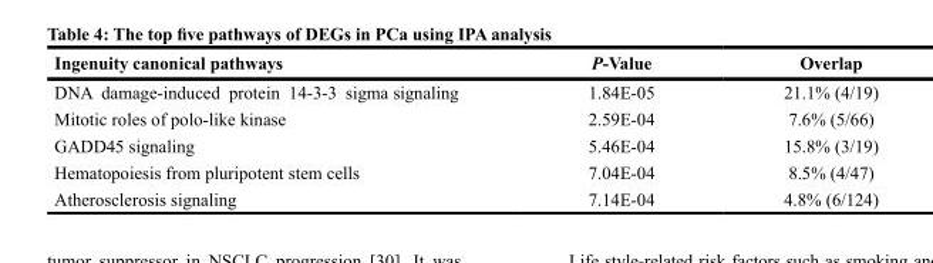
<table><thead><tr><td>Ingenuity canonical pathways</td><td>P-Value</td><td>Overlap</td></tr></thead><tbody><tr><td>DNA damage-induced protein 14-3-3 sigma signaling</td><td>1.84E-05</td><td>21.1% (4/19)</td></tr><tr><td>Mitotic roles of polo-like kinase</td><td>2.59E-04</td><td>7.6% (5/66)</td></tr><tr><td>GADD45 signaling</td><td>5.46E-04</td><td>15.8% (3/19)</td></tr><tr><td>Hematopoiesis from pluripotent stem cells</td><td>7.04E-04</td><td>8.5% (4/47)</td></tr><tr><td>Atherosclerosis signaling</td><td>7.14E-04</td><td>4.8% (6/124)</td></tr></tbody></table>